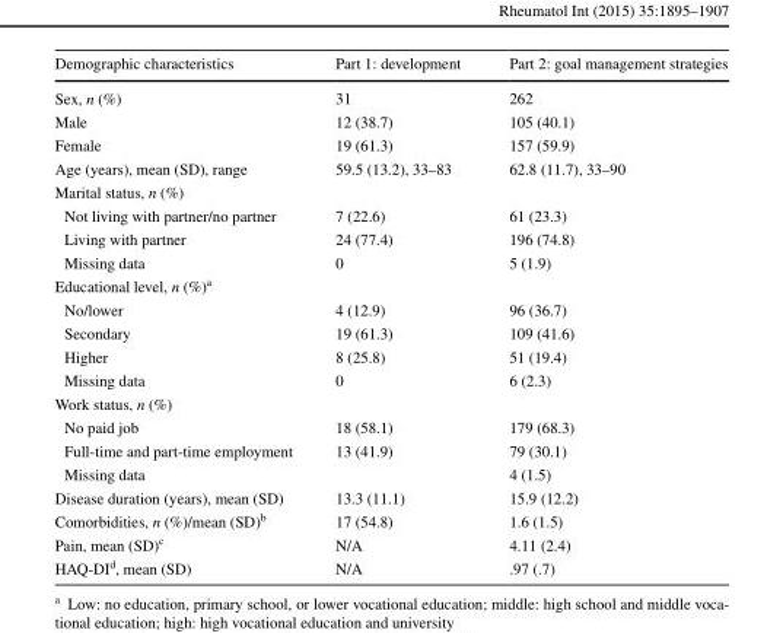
<table><thead><tr><td>Demographic characteristics</td><td>Part 1: development</td><td>Part 2: goal management strategies</td></tr></thead><tbody><tr><td>Sex, n (%)</td><td>31</td><td>262</td></tr><tr><td>Male</td><td>12 (38.7)</td><td>105 (40.1)</td></tr><tr><td>Female</td><td>19 (61.3)</td><td>157 (59.9)</td></tr><tr><td>Age (years), mean (SD), range</td><td>59.5 (13.2), 33–83</td><td>62.8 (11.7), 33–90</td></tr><tr><td colspan="3">Marital status, n (%)</td></tr><tr><td>Not living with partner/no partner</td><td>7 (22.6)</td><td>61 (23.3)</td></tr><tr><td>Living with partner</td><td>24 (77.4)</td><td>196 (74.8)</td></tr><tr><td>Missing data</td><td>0</td><td>5 (1.9)</td></tr><tr><td colspan="3">Educational level, n (%)<sup>a</sup></td></tr><tr><td>No/lower</td><td>4 (12.9)</td><td>96 (36.7)</td></tr><tr><td>Secondary</td><td>19 (61.3)</td><td>109 (41.6)</td></tr><tr><td>Higher</td><td>8 (25.8)</td><td>51 (19.4)</td></tr><tr><td>Missing data</td><td>0</td><td>6 (2.3)</td></tr><tr><td colspan="3">Work status, n (%)</td></tr><tr><td>No paid job</td><td>18 (58.1)</td><td>179 (68.3)</td></tr><tr><td>Full-time and part-time employment</td><td>13 (41.9)</td><td>79 (30.1)</td></tr><tr><td>Missing data</td><td></td><td>4 (1.5)</td></tr><tr><td>Disease duration (years), mean (SD)</td><td>13.3 (11.1)</td><td>15.9 (12.2)</td></tr><tr><td>Comorbidities, n (%)/mean (SD)<sup>b</sup></td><td>17 (54.8)</td><td>1.6 (1.5)</td></tr><tr><td>Pain, mean (SD)<sup>c</sup></td><td>N/A</td><td>4.11 (2.4)</td></tr><tr><td>HAQ-DI<sup>d</sup>, mean (SD)</td><td>N/A</td><td>.97 (.7)</td></tr></tbody></table>